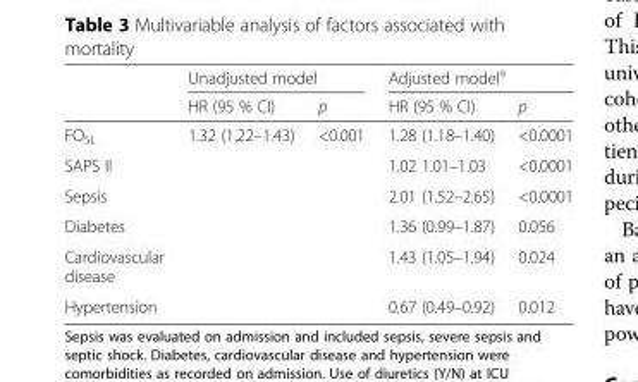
<table><thead><tr><td rowspan="2"></td><td colspan="2">Unadjusted model</td><td colspan="2">Adjusted model<sup>a</sup></td></tr><tr><td>HR (95 % CI)</td><td>p</td><td>HR (95 % CI)</td><td>p</td></tr></thead><tbody><tr><td>FO<sub>SL</sub></td><td>1.32 (1.22–1.43)</td><td>&lt;0.001</td><td>1.28 (1.18–1.40)</td><td>&lt;0.0001</td></tr><tr><td>SAPS II</td><td></td><td></td><td>1.02 1.01–1.03</td><td>&lt;0.0001</td></tr><tr><td>Sepsis</td><td></td><td></td><td>2.01 (1.52–2.65)</td><td>&lt;0.0001</td></tr><tr><td>Diabetes</td><td></td><td></td><td>1.36 (0.99–1.87)</td><td>0.056</td></tr><tr><td>Cardiovascular disease</td><td></td><td></td><td>1.43 (1.05–1.94)</td><td>0.024</td></tr><tr><td>Hypertension</td><td></td><td></td><td>0.67 (0.49–0.92)</td><td>0.012</td></tr></tbody></table>